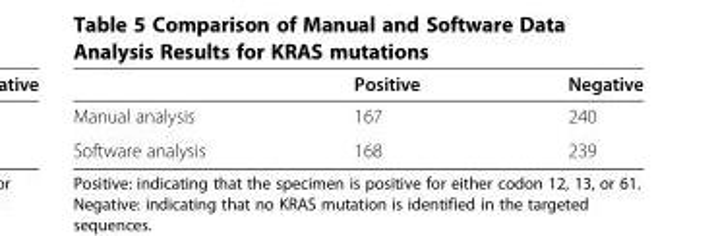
<table><thead><tr><td></td><td>Positive</td><td>Negative</td></tr></thead><tbody><tr><td>Manual analysis</td><td>167</td><td>240</td></tr><tr><td>Software analysis</td><td>168</td><td>239</td></tr></tbody></table>